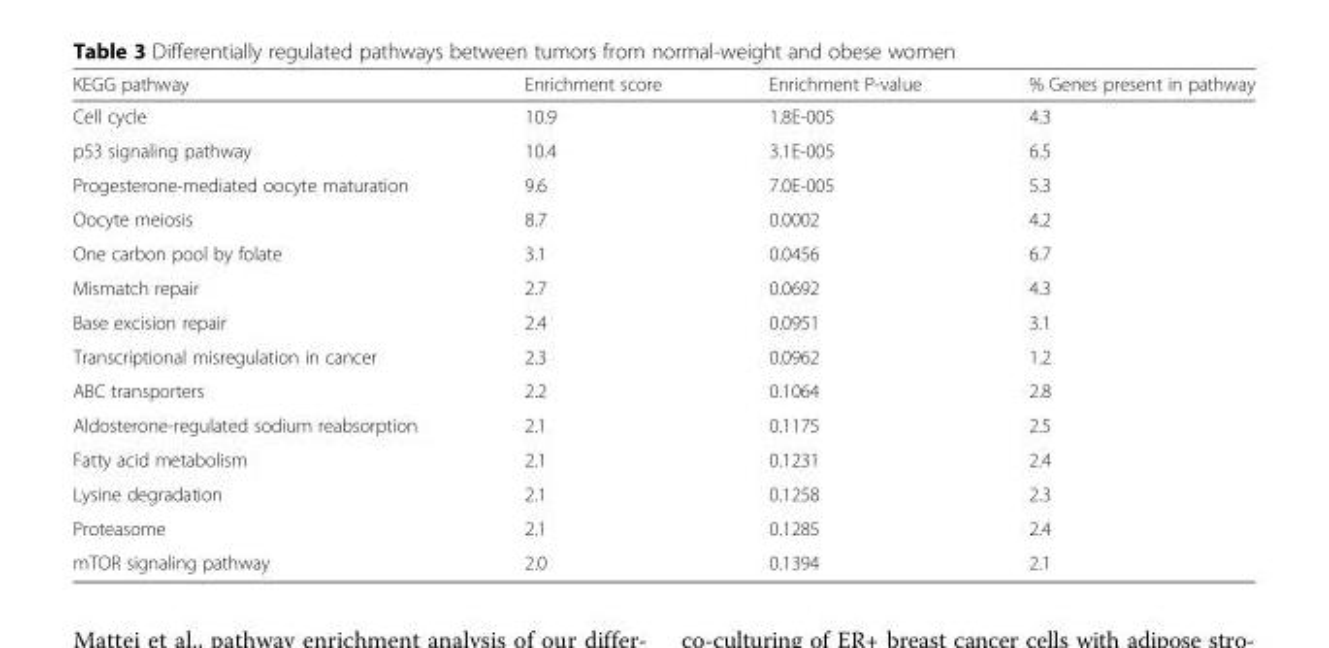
<table><thead><tr><td>KEGG pathway</td><td>Enrichment score</td><td>Enrichment P-value</td><td>% Genes present in pathway</td></tr></thead><tbody><tr><td>Cell cycle</td><td>10.9</td><td>1.8E-005</td><td>4.3</td></tr><tr><td>p53 signaling pathway</td><td>10.4</td><td>3.1E-005</td><td>6.5</td></tr><tr><td>Progesterone-mediated oocyte maturation</td><td>9.6</td><td>7.0E-005</td><td>5.3</td></tr><tr><td>Oocyte meiosis</td><td>8.7</td><td>0.0002</td><td>4.2</td></tr><tr><td>One carbon pool by folate</td><td>3.1</td><td>0.0456</td><td>6.7</td></tr><tr><td>Mismatch repair</td><td>2.7</td><td>0.0692</td><td>4.3</td></tr><tr><td>Base excision repair</td><td>2.4</td><td>0.0951</td><td>3.1</td></tr><tr><td>Transcriptional misregulation in cancer</td><td>2.3</td><td>0.0962</td><td>1.2</td></tr><tr><td>ABC transporters</td><td>2.2</td><td>0.1064</td><td>2.8</td></tr><tr><td>Aldosterone-regulated sodium reabsorption</td><td>2.1</td><td>0.1175</td><td>2.5</td></tr><tr><td>Fatty acid metabolism</td><td>2.1</td><td>0.1231</td><td>2.4</td></tr><tr><td>Lysine degradation</td><td>2.1</td><td>0.1258</td><td>2.3</td></tr><tr><td>Proteasome</td><td>2.1</td><td>0.1285</td><td>2.4</td></tr><tr><td>mTOR signaling pathway</td><td>2.0</td><td>0.1394</td><td>2.1</td></tr></tbody></table>